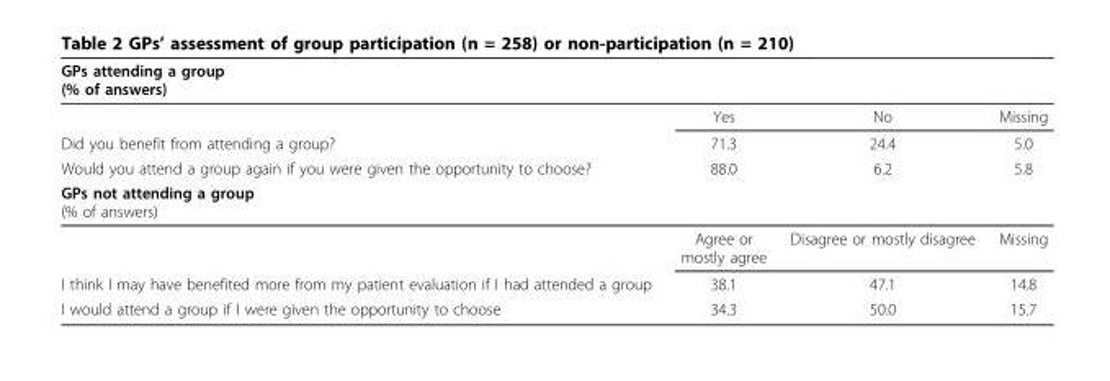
<table><thead><tr><td>GPs attending a group (% of answers)</td><td></td><td></td><td></td></tr></thead><tbody><tr><td></td><td>Yes</td><td>No</td><td>Missing</td></tr><tr><td>Did you benefit from attending a group?</td><td>71.3</td><td>24.4</td><td>5.0</td></tr><tr><td>Would you attend a group again if you were given the opportunity to choose?</td><td>88.0</td><td>6.2</td><td>5.8</td></tr><tr><td colspan="4">GPs not attending a group (% of answers)</td></tr><tr><td></td><td>Agree or mostly agree</td><td>Disagree or mostly disagree</td><td>Missing</td></tr><tr><td>I think I may have benefited more from my patient evaluation if I had attended a group</td><td>38.1</td><td>47.1</td><td>14.8</td></tr><tr><td>I would attend a group if I were given the opportunity to choose</td><td>34.3</td><td>50.0</td><td>15.7</td></tr></tbody></table>